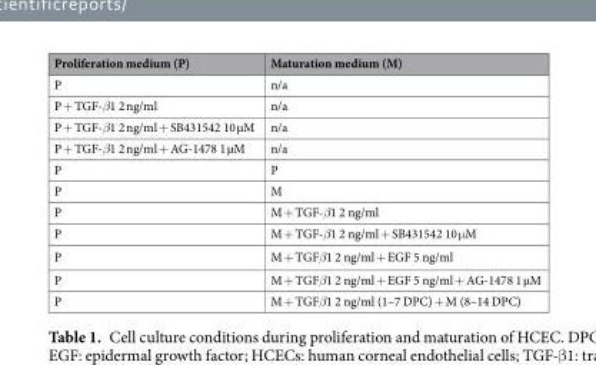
<table><thead><tr><td>Proliferation medium (P)</td><td>Maturation medium (M)</td></tr></thead><tbody><tr><td>P</td><td>n/a</td></tr><tr><td>P + TGF-β1 2 ng/ml</td><td>n/a</td></tr><tr><td>P + TGF-β1 2 ng/ml + SB431542 10 µM</td><td>n/a</td></tr><tr><td>P + TGF-β1 2 ng/ml + AG-1478 1 µM</td><td>n/a</td></tr><tr><td>P</td><td>P</td></tr><tr><td>P</td><td>M</td></tr><tr><td>P</td><td>M + TGF-β1 2 ng/ml</td></tr><tr><td>P</td><td>M + TGF-β1 2 ng/ml + SB431542 10 μM</td></tr><tr><td>P</td><td>M + TGFβ1 2 ng/ml + EGF 5 ng/ml</td></tr><tr><td>P</td><td>M + TGFβ1 2 ng/ml + EGF 5 ng/ml + AG-1478 1 µM</td></tr><tr><td>P</td><td>M + TGFβ1 2 ng/ml (1–7 DPC) + M (8–14 DPC)</td></tr></tbody></table>